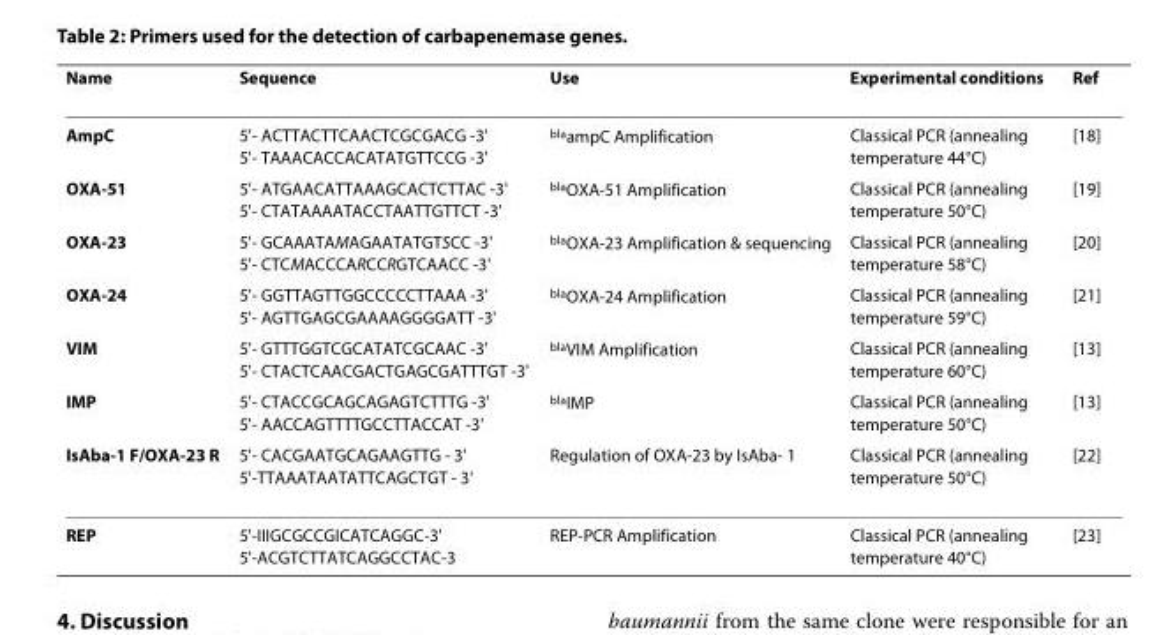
<table><thead><tr><td>Name</td><td>Sequence</td><td>Use</td><td>Experimental conditions</td><td>Ref</td></tr></thead><tbody><tr><td>AmpC</td><td>5&#x27;- ACTTACTTCAACTCGCGACG -3&#x27; 5&#x27;- TAAACACCACATATGTTCCG -3&#x27;</td><td><sup>bla</sup>ampC Amplification</td><td>Classical PCR (annealing temperature 44°C)</td><td>[18]</td></tr><tr><td>OXA-51</td><td>5&#x27;- ATGAACATTAAAGCACTCTTAC -3&#x27; 5&#x27;- CTATAAAATACCTAATTGTTCT -3&#x27;</td><td><sup>bla</sup>OXA-51 Amplification</td><td>Classical PCR (annealing temperature 50°C)</td><td>[19]</td></tr><tr><td>OXA-23</td><td>5&#x27;- GCAAATAMAGAATATGTSCC -3&#x27; 5&#x27;- CTCMACCCARCCRGTCAACC -3&#x27;</td><td><sup>bla</sup>OXA-23 Amplification &amp; sequencing</td><td>Classical PCR (annealing temperature 58°C)</td><td>[20]</td></tr><tr><td>OXA-24</td><td>5&#x27;- GGTTAGTTGGCCCCCTTAAA -3&#x27; 5&#x27;- AGTTGAGCGAAAAGGGGATT -3&#x27;</td><td><sup>bla</sup>OXA-24 Amplification</td><td>Classical PCR (annealing temperature 59°C)</td><td>[21]</td></tr><tr><td>VIM</td><td>5&#x27;- GTTTGGTCGCATATCGCAAC -3&#x27; 5&#x27;- CTACTCAACGACTGAGCGATTTGT -3&#x27;</td><td><sup>bla</sup>VIM Amplification</td><td>Classical PCR (annealing temperature 60°C)</td><td>[13]</td></tr><tr><td>IMP</td><td>5&#x27;- CTACCGCAGCAGAGTCTTTG -3&#x27; 5&#x27;- AACCAGTTTTGCCTTACCAT -3&#x27;</td><td><sup>bla</sup>IMP</td><td>Classical PCR (annealing temperature 50°C)</td><td>[13]</td></tr><tr><td>IsAba-1 F/OXA-23 R</td><td>5&#x27;- CACGAATGCAGAAGTTG - 3&#x27; 5&#x27;-TTAAATAATATTCAGCTGT - 3&#x27;</td><td>Regulation of OXA-23 by IsAba- 1</td><td>Classical PCR (annealing temperature 50°C)</td><td>[22]</td></tr><tr><td>REP</td><td>5&#x27;-IIIGCGCCGICATCAGGC-3&#x27; 5&#x27;-ACGTCTTATCAGGCCTAC-3</td><td>REP-PCR Amplification</td><td>Classical PCR (annealing temperature 40°C)</td><td>[23]</td></tr></tbody></table>